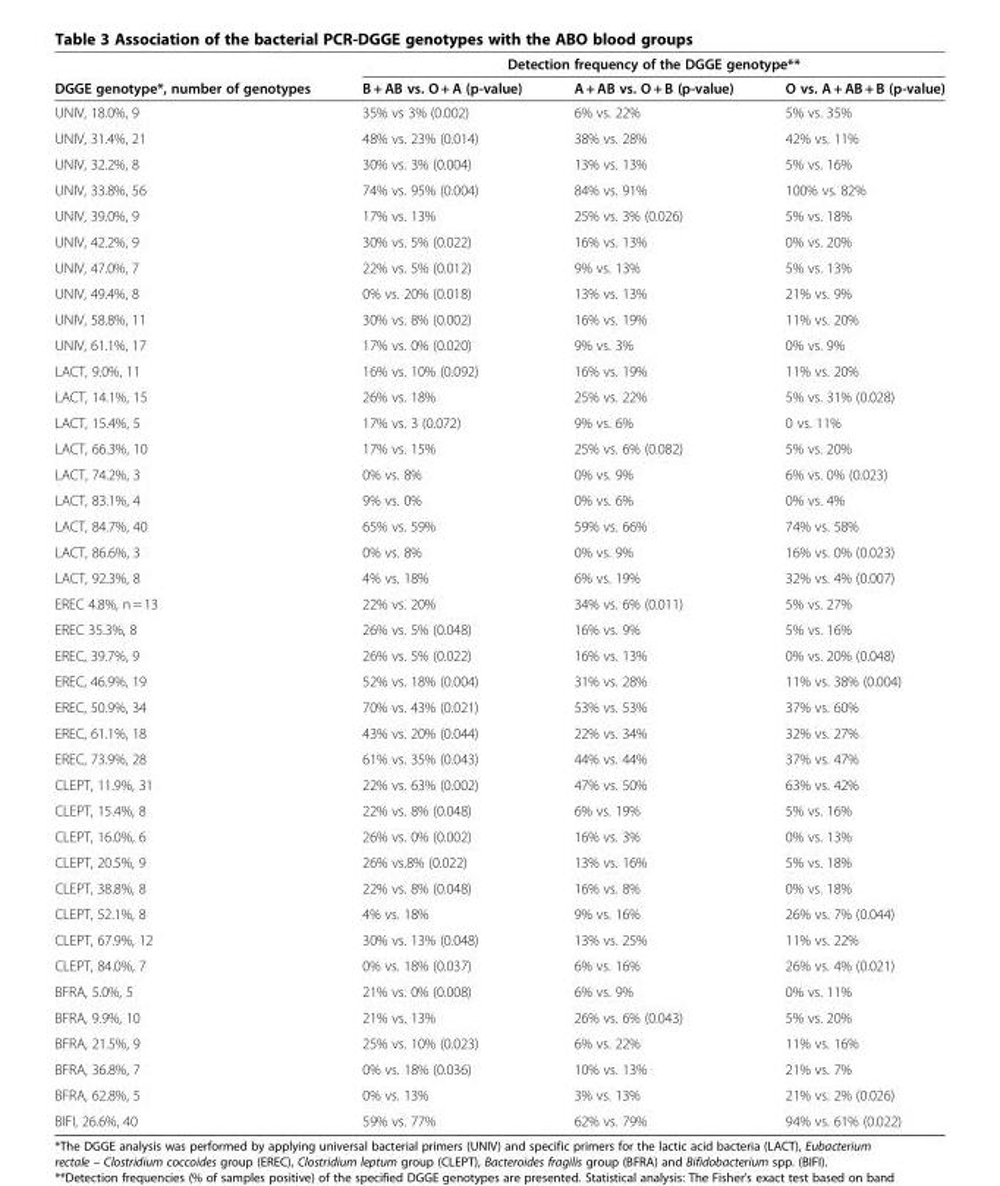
<table><thead><tr><td rowspan="2">DGGE genotype*, number of genotypes</td><td colspan="3">Detection frequency of the DGGE genotype**</td></tr><tr><td>B + AB vs. O + A (p-value)</td><td>A + AB vs. O + B (p-value)</td><td>O vs. A + AB + B (p-value)</td></tr></thead><tbody><tr><td>UNIV, 18.0%, 9</td><td>35% vs 3% (0.002)</td><td>6% vs. 22%</td><td>5% vs. 35%</td></tr><tr><td>UNIV, 31.4%, 21</td><td>48% vs. 23% (0.014)</td><td>38% vs. 28%</td><td>42% vs. 11%</td></tr><tr><td>UNIV, 32.2%, 8</td><td>30% vs. 3% (0.004)</td><td>13% vs. 13%</td><td>5% vs. 16%</td></tr><tr><td>UNIV, 33.8%, 56</td><td>74% vs. 95% (0.004)</td><td>84% vs. 91%</td><td>100% vs. 82%</td></tr><tr><td>UNIV, 39.0%, 9</td><td>17% vs. 13%</td><td>25% vs. 3% (0.026)</td><td>5% vs. 18%</td></tr><tr><td>UNIV, 42.2%, 9</td><td>30% vs. 5% (0.022)</td><td>16% vs. 13%</td><td>0% vs. 20%</td></tr><tr><td>UNIV, 47.0%, 7</td><td>22% vs. 5% (0.012)</td><td>9% vs. 13%</td><td>5% vs. 13%</td></tr><tr><td>UNIV, 49.4%, 8</td><td>0% vs. 20% (0.018)</td><td>13% vs. 13%</td><td>21% vs. 9%</td></tr><tr><td>UNIV, 58.8%, 11</td><td>30% vs. 8% (0.002)</td><td>16% vs. 19%</td><td>11% vs. 20%</td></tr><tr><td>UNIV, 61.1%, 17</td><td>17% vs. 0% (0.020)</td><td>9% vs. 3%</td><td>0% vs. 9%</td></tr><tr><td>LACT, 9.0%, 11</td><td>16% vs. 10% (0.092)</td><td>16% vs. 19%</td><td>11% vs. 20%</td></tr><tr><td>LACT, 14.1%, 15</td><td>26% vs. 18%</td><td>25% vs. 22%</td><td>5% vs. 31% (0.028)</td></tr><tr><td>LACT, 15.4%, 5</td><td>17% vs. 3 (0.072)</td><td>9% vs. 6%</td><td>0 vs. 11%</td></tr><tr><td>LACT, 66.3%, 10</td><td>17% vs. 15%</td><td>25% vs. 6% (0.082)</td><td>5% vs. 20%</td></tr><tr><td>LACT, 74.2%, 3</td><td>0% vs. 8%</td><td>0% vs. 9%</td><td>6% vs. 0% (0.023)</td></tr><tr><td>LACT, 83.1%, 4</td><td>9% vs. 0%</td><td>0% vs. 6%</td><td>0% vs. 4%</td></tr><tr><td>LACT, 84.7%, 40</td><td>65% vs. 59%</td><td>59% vs. 66%</td><td>74% vs. 58%</td></tr><tr><td>LACT, 86.6%, 3</td><td>0% vs. 8%</td><td>0% vs. 9%</td><td>16% vs. 0% (0.023)</td></tr><tr><td>LACT, 92.3%, 8</td><td>4% vs. 18%</td><td>6% vs. 19%</td><td>32% vs. 4% (0.007)</td></tr><tr><td>EREC 4.8%, n = 13</td><td>22% vs. 20%</td><td>34% vs. 6% (0.011)</td><td>5% vs. 27%</td></tr><tr><td>EREC 35.3%, 8</td><td>26% vs. 5% (0.048)</td><td>16% vs. 9%</td><td>5% vs. 16%</td></tr><tr><td>EREC, 39.7%, 9</td><td>26% vs. 5% (0.022)</td><td>16% vs. 13%</td><td>0% vs. 20% (0.048)</td></tr><tr><td>EREC, 46.9%, 19</td><td>52% vs. 18% (0.004)</td><td>31% vs. 28%</td><td>11% vs. 38% (0.004)</td></tr><tr><td>EREC, 50.9%, 34</td><td>70% vs. 43% (0.021)</td><td>53% vs. 53%</td><td>37% vs. 60%</td></tr><tr><td>EREC, 61.1%, 18</td><td>43% vs. 20% (0.044)</td><td>22% vs. 34%</td><td>32% vs. 27%</td></tr><tr><td>EREC, 73.9%, 28</td><td>61% vs. 35% (0.043)</td><td>44% vs. 44%</td><td>37% vs. 47%</td></tr><tr><td>CLEPT, 11.9%, 31</td><td>22% vs. 63% (0.002)</td><td>47% vs. 50%</td><td>63% vs. 42%</td></tr><tr><td>CLEPT, 15.4%, 8</td><td>22% vs. 8% (0.048)</td><td>6% vs. 19%</td><td>5% vs. 16%</td></tr><tr><td>CLEPT, 16.0%, 6</td><td>26% vs. 0% (0.002)</td><td>16% vs. 3%</td><td>0% vs. 13%</td></tr><tr><td>CLEPT, 20.5%, 9</td><td>26% vs.8% (0.022)</td><td>13% vs. 16%</td><td>5% vs. 18%</td></tr><tr><td>CLEPT, 38.8%, 8</td><td>22% vs. 8% (0.048)</td><td>16% vs. 8%</td><td>0% vs. 18%</td></tr><tr><td>CLEPT, 52.1%, 8</td><td>4% vs. 18%</td><td>9% vs. 16%</td><td>26% vs. 7% (0.044)</td></tr><tr><td>CLEPT, 67.9%, 12</td><td>30% vs. 13% (0.048)</td><td>13% vs. 25%</td><td>11% vs. 22%</td></tr><tr><td>CLEPT, 84.0%, 7</td><td>0% vs. 18% (0.037)</td><td>6% vs. 16%</td><td>26% vs. 4% (0.021)</td></tr><tr><td>BFRA, 5.0%, 5</td><td>21% vs. 0% (0.008)</td><td>6% vs. 9%</td><td>0% vs. 11%</td></tr><tr><td>BFRA, 9.9%, 10</td><td>21% vs. 13%</td><td>26% vs. 6% (0.043)</td><td>5% vs. 20%</td></tr><tr><td>BFRA, 21.5%, 9</td><td>25% vs. 10% (0.023)</td><td>6% vs. 22%</td><td>11% vs. 16%</td></tr><tr><td>BFRA, 36.8%, 7</td><td>0% vs. 18% (0.036)</td><td>10% vs. 13%</td><td>21% vs. 7%</td></tr><tr><td>BFRA, 62.8%, 5</td><td>0% vs. 13%</td><td>3% vs. 13%</td><td>21% vs. 2% (0.026)</td></tr><tr><td>BIFI, 26.6%, 40</td><td>59% vs. 77%</td><td>62% vs. 79%</td><td>94% vs. 61% (0.022)</td></tr></tbody></table>